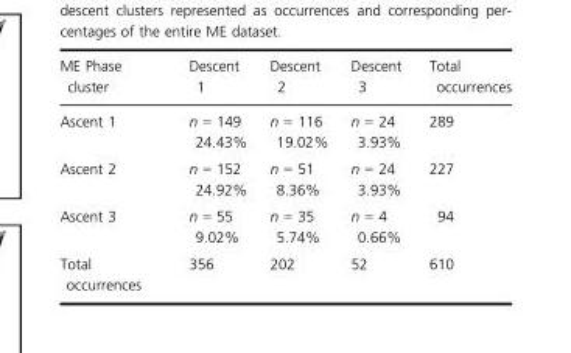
<table><thead><tr><td>ME Phase cluster</td><td>Descent 1</td><td>Descent 2</td><td>Descent 3</td><td>Total occurrences</td></tr></thead><tbody><tr><td>Ascent 1</td><td>n = 149 24.43%</td><td>n = 116 19.02%</td><td>n = 24 3.93%</td><td>289</td></tr><tr><td>Ascent 2</td><td>n = 152 24.92%</td><td>n = 51 8.36%</td><td>n = 24 3.93%</td><td>227</td></tr><tr><td>Ascent 3</td><td>n = 55 9.02%</td><td>n = 35 5.74%</td><td>n = 4 0.66%</td><td>94</td></tr><tr><td>Total occurrences</td><td>356</td><td>202</td><td>52</td><td>610</td></tr></tbody></table>